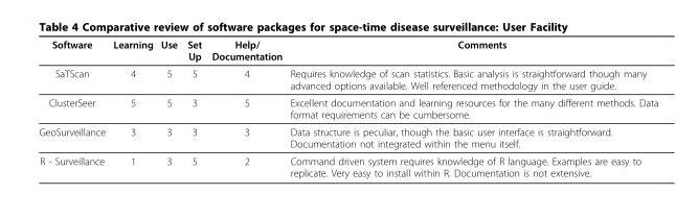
<table><thead><tr><td>Software</td><td>Learning</td><td>Use</td><td>Set Up</td><td>Help/ Documentation</td><td>Comments</td></tr></thead><tbody><tr><td>SaTScan</td><td>4</td><td>5</td><td>5</td><td>4</td><td>Requires knowledge of scan statistics. Basic analysis is straightforward though many advanced options available. Well referenced methodology in the user guide.</td></tr><tr><td>ClusterSeer</td><td>5</td><td>5</td><td>3</td><td>5</td><td>Excellent documentation and learning resources for the many different methods. Data format requirements can be cumbersome.</td></tr><tr><td>GeoSurveillance</td><td>3</td><td>3</td><td>3</td><td>3</td><td>Data structure is peculiar, though the basic user interface is straightforward. Documentation not integrated within the menu itself.</td></tr><tr><td>R - Surveillance</td><td>1</td><td>3</td><td>5</td><td>2</td><td>Command driven system requires knowledge of R language. Examples are easy to replicate. Very easy to install within R. Documentation is not extensive.</td></tr></tbody></table>